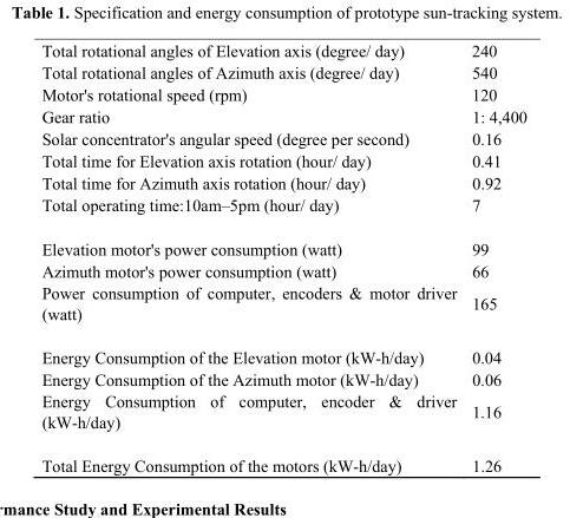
<table><tbody><tr><td>Total rotational angles of Elevation axis (degree/ day)</td><td>240</td></tr><tr><td>Total rotational angles of Azimuth axis (degree/ day)</td><td>540</td></tr><tr><td>Motor&#x27;s rotational speed (rpm)</td><td>120</td></tr><tr><td>Gear ratio</td><td>1: 4,400</td></tr><tr><td>Solar concentrator&#x27;s angular speed (degree per second)</td><td>0.16</td></tr><tr><td>Total time for Elevation axis rotation (hour/ day)</td><td>0.41</td></tr><tr><td>Total time for Azimuth axis rotation (hour/ day)</td><td>0.92</td></tr><tr><td>Total operating time:10am–5pm (hour/ day)</td><td>7</td></tr><tr><td>Elevation motor&#x27;s power consumption (watt)</td><td>99</td></tr><tr><td>Azimuth motor&#x27;s power consumption (watt)</td><td>66</td></tr><tr><td>Power consumption of computer, encoders &amp; motor driver (watt)</td><td>165</td></tr><tr><td>Energy Consumption of the Elevation motor (kW-h/day)</td><td>0.04</td></tr><tr><td>Energy Consumption of the Azimuth motor (kW-h/day)</td><td>0.06</td></tr><tr><td>Energy Consumption of computer, encoder &amp; driver (kW-h/day)</td><td>1.16</td></tr><tr><td>Total Energy Consumption of the motors (kW-h/day)</td><td>1.26</td></tr></tbody></table>